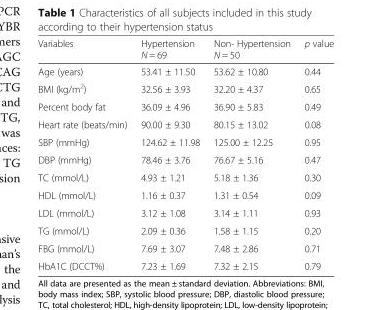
<table><thead><tr><td>Variables</td><td>Hypertension N = 69</td><td>Non- Hypertension N = 50</td><td>p value</td></tr></thead><tbody><tr><td>Age (years)</td><td>53.41 ± 11.50</td><td>53.62 ± 10.80</td><td>0.44</td></tr><tr><td>BMI (kg/m<sup>2</sup>)</td><td>32.56 ± 3.93</td><td>32.20 ± 4.37</td><td>0.65</td></tr><tr><td>Percent body fat</td><td>36.09 ± 4.96</td><td>36.90 ± 5.83</td><td>0.49</td></tr><tr><td>Heart rate (beats/min)</td><td>90.00 ± 9.30</td><td>80.15 ± 13.02</td><td>0.08</td></tr><tr><td>SBP (mmHg)</td><td>124.62 ± 11.98</td><td>125.00 ± 12.25</td><td>0.95</td></tr><tr><td>DBP (mmHg)</td><td>78.46 ± 3.76</td><td>76.67 ± 5.16</td><td>0.47</td></tr><tr><td>TC (mmol/L)</td><td>4.93 ± 1.21</td><td>5.18 ± 1.36</td><td>0.30</td></tr><tr><td>HDL (mmol/L)</td><td>1.16 ± 0.37</td><td>1.31 ± 0.54</td><td>0.09</td></tr><tr><td>LDL (mmol/L)</td><td>3.12 ± 1.08</td><td>3.14 ± 1.11</td><td>0.93</td></tr><tr><td>TG (mmol/L)</td><td>2.09 ± 0.36</td><td>1.58 ± 1.15</td><td>0.20</td></tr><tr><td>FBG (mmol/L)</td><td>7.69 ± 3.07</td><td>7.48 ± 2.86</td><td>0.71</td></tr><tr><td>HbA1C (DCCT%)</td><td>7.23 ± 1.69</td><td>7.32 ± 2.15</td><td>0.79</td></tr></tbody></table>